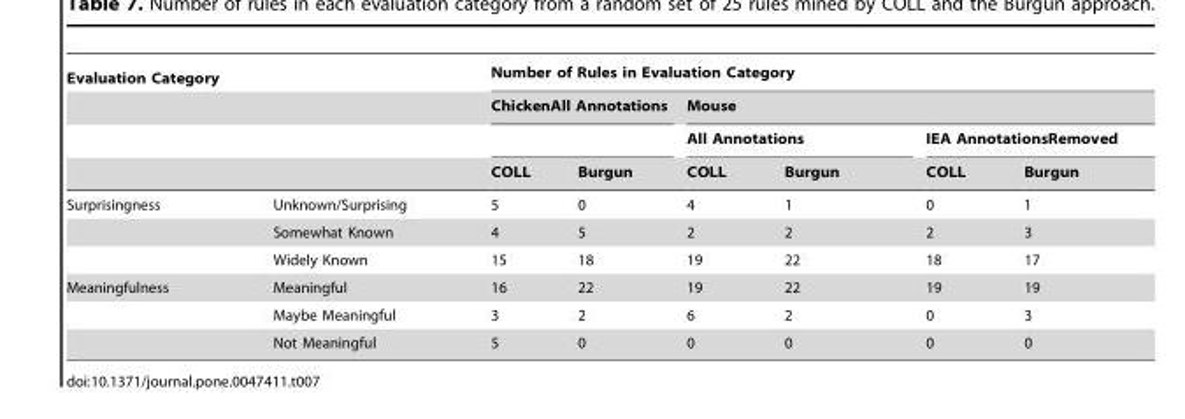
<table><thead><tr><td colspan="2">Evaluation Category</td><td colspan="6">Number of Rules in Evaluation Category</td></tr><tr><td rowspan="3"></td><td rowspan="3"></td><td colspan="2">ChickenAll Annotations</td><td colspan="4">Mouse</td></tr><tr><td rowspan="2">COLL</td><td rowspan="2">Burgun</td><td colspan="2">All Annotations</td><td colspan="2">IEA AnnotationsRemoved</td></tr><tr><td>COLL</td><td>Burgun</td><td>COLL</td><td>Burgun</td></tr></thead><tbody><tr><td rowspan="3">Surprisingness</td><td>Unknown/Surprising</td><td>5</td><td>0</td><td>4</td><td>1</td><td>0</td><td>1</td></tr><tr><td>Somewhat Known</td><td>4</td><td>5</td><td>2</td><td>2</td><td>2</td><td>3</td></tr><tr><td>Widely Known</td><td>15</td><td>18</td><td>19</td><td>22</td><td>18</td><td>17</td></tr><tr><td rowspan="3">Meaningfulness</td><td>Meaningful</td><td>16</td><td>22</td><td>19</td><td>22</td><td>19</td><td>19</td></tr><tr><td>Maybe Meaningful</td><td>3</td><td>2</td><td>6</td><td>2</td><td>0</td><td>3</td></tr><tr><td>Not Meaningful</td><td>5</td><td>0</td><td>0</td><td>0</td><td>0</td><td>0</td></tr></tbody></table>